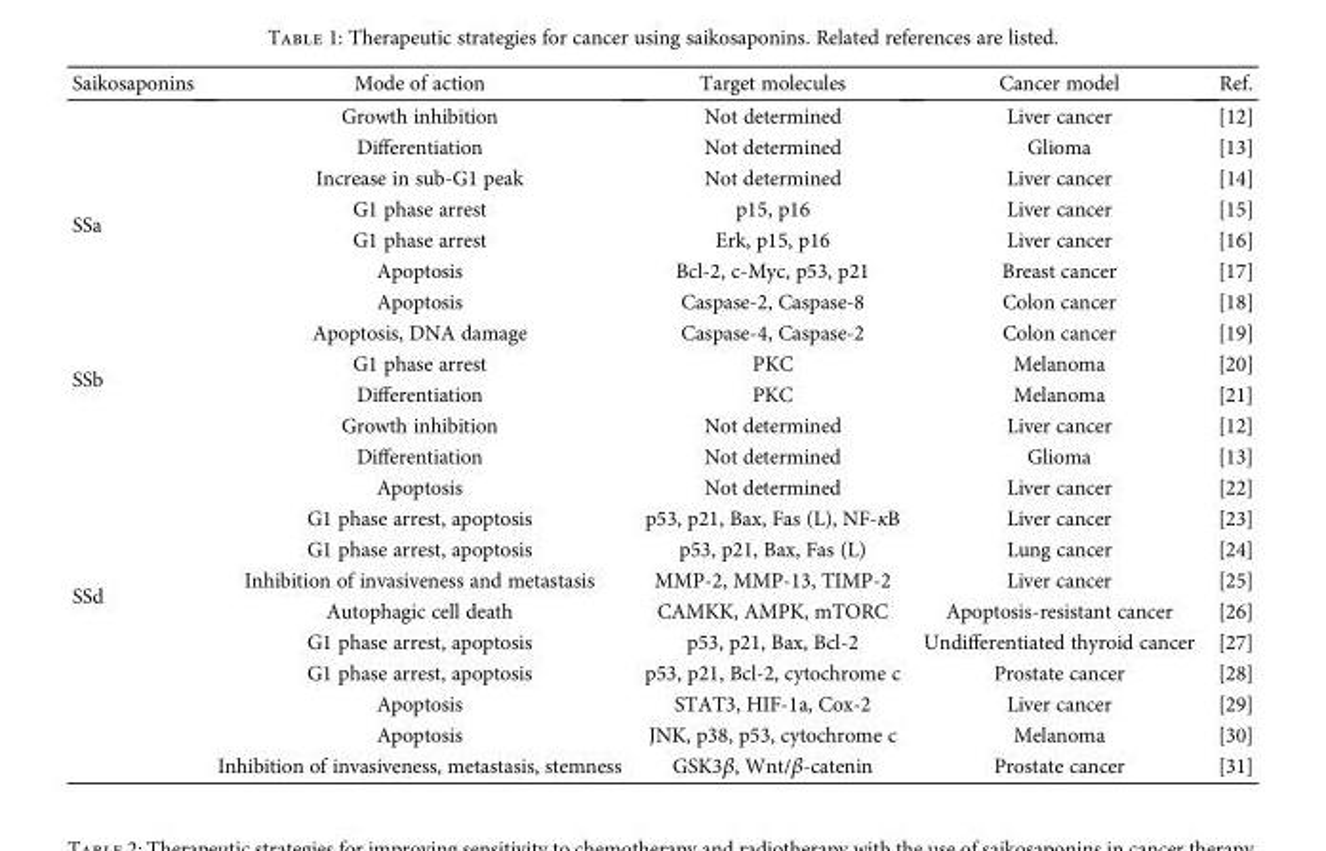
<table><thead><tr><td>Saikosaponins</td><td>Mode of action</td><td>Target molecules</td><td>Cancer model</td><td>Ref.</td></tr></thead><tbody><tr><td rowspan="8">SSa</td><td>Growth inhibition</td><td>Not determined</td><td>Liver cancer</td><td>[12]</td></tr><tr><td>Differentiation</td><td>Not determined</td><td>Glioma</td><td>[13]</td></tr><tr><td>Increase in sub-G1 peak</td><td>Not determined</td><td>Liver cancer</td><td>[14]</td></tr><tr><td>G1 phase arrest</td><td>p15, p16</td><td>Liver cancer</td><td>[15]</td></tr><tr><td>G1 phase arrest</td><td>Erk, p15, p16</td><td>Liver cancer</td><td>[16]</td></tr><tr><td>Apoptosis</td><td>Bcl-2, c-Myc, p53, p21</td><td>Breast cancer</td><td>[17]</td></tr><tr><td>Apoptosis</td><td>Caspase-2, Caspase-8</td><td>Colon cancer</td><td>[18]</td></tr><tr><td>Apoptosis, DNA damage</td><td>Caspase-4, Caspase-2</td><td>Colon cancer</td><td>[19]</td></tr><tr><td rowspan="2">SSb</td><td>G1 phase arrest</td><td>PKC</td><td>Melanoma</td><td>[20]</td></tr><tr><td>Differentiation</td><td>PKC</td><td>Melanoma</td><td>[21]</td></tr><tr><td rowspan="12">SSd</td><td>Growth inhibition</td><td>Not determined</td><td>Liver cancer</td><td>[12]</td></tr><tr><td>Differentiation</td><td>Not determined</td><td>Glioma</td><td>[13]</td></tr><tr><td>Apoptosis</td><td>Not determined</td><td>Liver cancer</td><td>[22]</td></tr><tr><td>G1 phase arrest, apoptosis</td><td>p53, p21, Bax, Fas (L), NF-κB</td><td>Liver cancer</td><td>[23]</td></tr><tr><td>G1 phase arrest, apoptosis</td><td>p53, p21, Bax, Fas (L)</td><td>Lung cancer</td><td>[24]</td></tr><tr><td>Inhibition of invasiveness and metastasis</td><td>MMP-2, MMP-13, TIMP-2</td><td>Liver cancer</td><td>[25]</td></tr><tr><td>Autophagic cell death</td><td>CAMKK, AMPK, mTORC</td><td>Apoptosis-resistant cancer</td><td>[26]</td></tr><tr><td>G1 phase arrest, apoptosis</td><td>p53, p21, Bax, Bcl-2</td><td>Undifferentiated thyroid cancer</td><td>[27]</td></tr><tr><td>G1 phase arrest, apoptosis</td><td>p53, p21, Bcl-2, cytochrome c</td><td>Prostate cancer</td><td>[28]</td></tr><tr><td>Apoptosis</td><td>STAT3, HIF-1a, Cox-2</td><td>Liver cancer</td><td>[29]</td></tr><tr><td>Apoptosis</td><td>JNK, p38, p53, cytochrome c</td><td>Melanoma</td><td>[30]</td></tr><tr><td>Inhibition of invasiveness, metastasis, stemness</td><td>GSK3β, Wnt/β-catenin</td><td>Prostate cancer</td><td>[31]</td></tr></tbody></table>